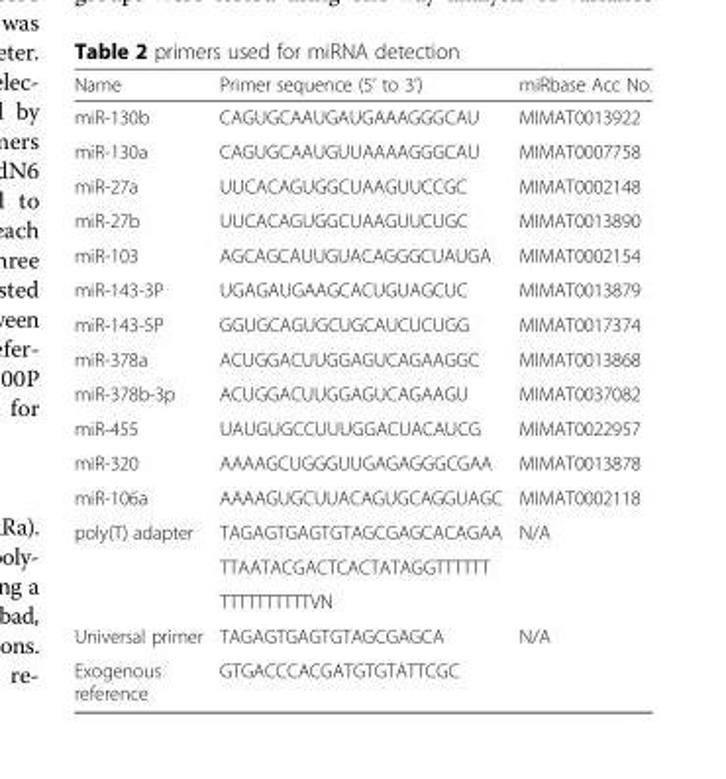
<table><thead><tr><td>Name</td><td>Primer sequence (5’ to 3’)</td><td>miRbase Acc No.</td></tr></thead><tbody><tr><td>miR-130b</td><td>CAGUGCAAUGAUGAAAGGGCAU</td><td>MIMAT0013922</td></tr><tr><td>miR-130a</td><td>CAGUGCAAUGUUAAAAGGGCAU</td><td>MIMAT0007758</td></tr><tr><td>miR-27a</td><td>UUCACAGUGGCUAAGUUCCGC</td><td>MIMAT0002148</td></tr><tr><td>miR-27b</td><td>UUCACAGUGGCUAAGUUCUGC</td><td>MIMAT0013890</td></tr><tr><td>miR-103</td><td>AGCAGCAUUGUACAGGGCUAUGA</td><td>MIMAT0002154</td></tr><tr><td>miR-143-3P</td><td>UGAGAUGAAGCACUGUAGCUC</td><td>MIMAT0013879</td></tr><tr><td>miR-143-5P</td><td>GGUGCAGUGCUGCAUCUCUGG</td><td>MIMAT0017374</td></tr><tr><td>miR-378a</td><td>ACUGGACUUGGAGUCAGAAGGC</td><td>MIMAT0013868</td></tr><tr><td>miR-378b-3p</td><td>ACUGGACUUGGAGUCAGAAGU</td><td>MIMAT0037082</td></tr><tr><td>miR-455</td><td>UAUGUGCCUUUGGACUACAUCG</td><td>MIMAT0022957</td></tr><tr><td>miR-320</td><td>AAAAGCUGGGUUGAGAGGGCGAA</td><td>MIMAT0013878</td></tr><tr><td>miR-106a</td><td>AAAAGUGCUUACAGUGCAGGUAGC</td><td>MIMAT0002118</td></tr><tr><td rowspan="3">poly(T) adapter</td><td>TAGAGTGAGTGTAGCGAGCACAGAA</td><td rowspan="3">N/A</td></tr><tr><td>TTAATACGACTCACTATAGGTTTTTT</td></tr><tr><td>TTTTTTTTTTVN</td></tr><tr><td>Universal primer</td><td>TAGAGTGAGTGTAGCGAGCA</td><td>N/A</td></tr><tr><td>Exogenous reference</td><td>GTGACCCACGATGTGTATTCGC</td><td></td></tr></tbody></table>